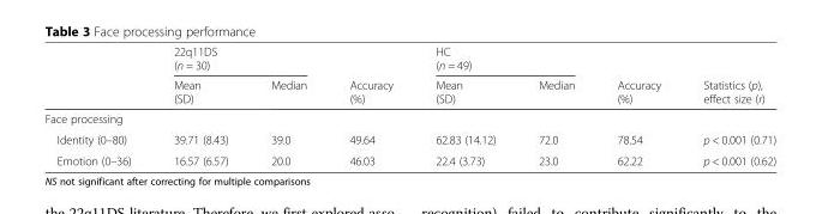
<table><thead><tr><td rowspan="2"></td><td colspan="2">22q11DS (n = 30)</td><td rowspan="2">Accuracy (%)</td><td colspan="2">HC (n = 49)</td><td rowspan="2">Accuracy (%)</td><td rowspan="2">Statistics (p), effect size (r)</td></tr><tr><td>Mean (SD)</td><td>Median</td><td>Mean (SD)</td><td>Median</td></tr></thead><tbody><tr><td colspan="8">Face processing</td></tr><tr><td>Identity (0–80)</td><td>39.71 (8.43)</td><td>39.0</td><td>49.64</td><td>62.83 (14.12)</td><td>72.0</td><td>78.54</td><td>p &lt; 0.001 (0.71)</td></tr><tr><td>Emotion (0–36)</td><td>16.57 (6.57)</td><td>20.0</td><td>46.03</td><td>22.4 (3.73)</td><td>23.0</td><td>62.22</td><td>p &lt; 0.001 (0.62)</td></tr></tbody></table>